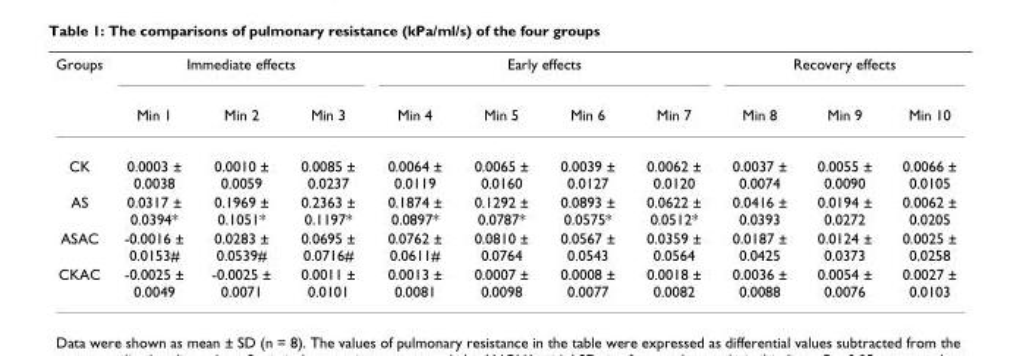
<table><thead><tr><td rowspan="2">Groups</td><td colspan="3">Immediate effects</td><td colspan="4">Early effects</td><td colspan="3">Recovery effects</td></tr><tr><td>Min 1</td><td>Min 2</td><td>Min 3</td><td>Min 4</td><td>Min 5</td><td>Min 6</td><td>Min 7</td><td>Min 8</td><td>Min 9</td><td>Min 10</td></tr></thead><tbody><tr><td>CK</td><td>0.0003 ± 0.0038</td><td>0.0010 ± 0.0059</td><td>0.0085 ± 0.0237</td><td>0.0064 ± 0.0119</td><td>0.0065 ± 0.0160</td><td>0.0039 ± 0.0127</td><td>0.0062 ± 0.0120</td><td>0.0037 ± 0.0074</td><td>0.0055 ± 0.0090</td><td>0.0066 ± 0.0105</td></tr><tr><td>AS</td><td>0.0317 ± 0.0394*</td><td>0.1969 ± 0.1051*</td><td>0.2363 ± 0.1197*</td><td>0.1874 ± 0.0897*</td><td>0.1292 ± 0.0787*</td><td>0.0893 ± 0.0575*</td><td>0.0622 ± 0.0512*</td><td>0.0416 ± 0.0393</td><td>0.0194 ± 0.0272</td><td>0.0062 ± 0.0205</td></tr><tr><td>ASAC</td><td>-0.0016 ± 0.0153#</td><td>0.0283 ± 0.0539#</td><td>0.0695 ± 0.0716#</td><td>0.0762 ± 0.0611#</td><td>0.0810 ± 0.0764</td><td>0.0567 ± 0.0543</td><td>0.0359 ± 0.0564</td><td>0.0187 ± 0.0425</td><td>0.0124 ± 0.0373</td><td>0.0025 ± 0.0258</td></tr><tr><td>CKAC</td><td>-0.0025 ± 0.0049</td><td>-0.0025 ± 0.0071</td><td>0.0011 ± 0.0101</td><td>0.0013 ± 0.0081</td><td>0.0007 ± 0.0098</td><td>0.0008 ± 0.0077</td><td>0.0018 ± 0.0082</td><td>0.0036 ± 0.0088</td><td>0.0054 ± 0.0076</td><td>0.0027 ± 0.0103</td></tr></tbody></table>